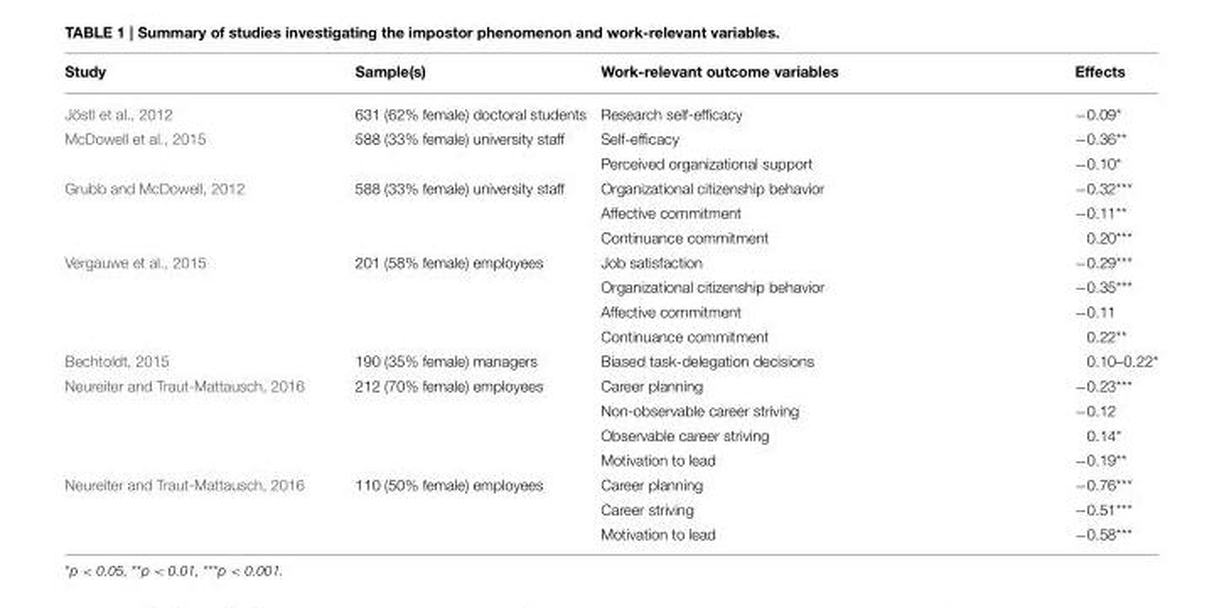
<table><thead><tr><td>Study</td><td>Sample(s)</td><td>Work-relevant outcome variables</td><td>Effects</td></tr></thead><tbody><tr><td>Jöstl et al., 2012</td><td>631 (62% female) doctoral students</td><td>Research self-efficacy</td><td>−0.09*</td></tr><tr><td rowspan="2">McDowell et al., 2015</td><td>588 (33% female) university staff</td><td>Self-efficacy</td><td>−0.36**</td></tr><tr><td></td><td>Perceived organizational support</td><td>−0.10*</td></tr><tr><td rowspan="3">Grubb and McDowell, 2012</td><td>588 (33% female) university staff</td><td>Organizational citizenship behavior</td><td>−0.32***</td></tr><tr><td></td><td>Affective commitment</td><td>−0.11**</td></tr><tr><td></td><td>Continuance commitment</td><td>0.20***</td></tr><tr><td rowspan="4">Vergauwe et al., 2015</td><td>201 (58% female) employees</td><td>Job satisfaction</td><td>−0.29***</td></tr><tr><td></td><td>Organizational citizenship behavior</td><td>−0.35***</td></tr><tr><td></td><td>Affective commitment</td><td>−0.11</td></tr><tr><td></td><td>Continuance commitment</td><td>0.22**</td></tr><tr><td>Bechtoldt, 2015</td><td>190 (35% female) managers</td><td>Biased task-delegation decisions</td><td>0.10–0.22*</td></tr><tr><td rowspan="4">Neureiter and Traut-Mattausch, 2016</td><td>212 (70% female) employees</td><td>Career planning</td><td>−0.23***</td></tr><tr><td></td><td>Non-observable career striving</td><td>−0.12</td></tr><tr><td></td><td>Observable career striving</td><td>0.14*</td></tr><tr><td></td><td>Motivation to lead</td><td>−0.19**</td></tr><tr><td rowspan="3">Neureiter and Traut-Mattausch, 2016</td><td>110 (50% female) employees</td><td>Career planning</td><td>−0.76***</td></tr><tr><td></td><td>Career striving</td><td>−0.51***</td></tr><tr><td></td><td>Motivation to lead</td><td>−0.58***</td></tr></tbody></table>